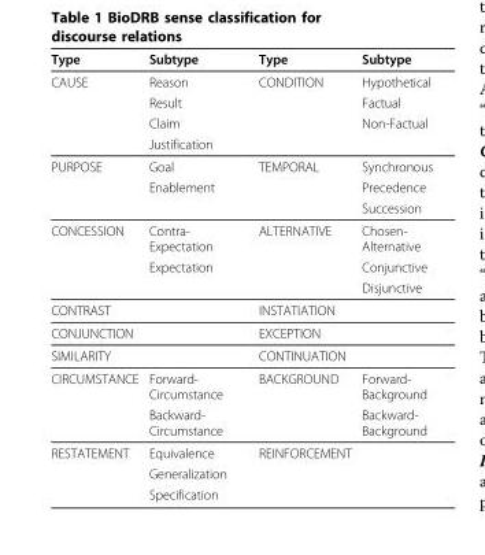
<table><thead><tr><td>Type</td><td>Subtype</td><td>Type</td><td>Subtype</td></tr></thead><tbody><tr><td rowspan="4">CAUSE</td><td>Reason</td><td>CONDITION</td><td>Hypothetical</td></tr><tr><td>Result</td><td></td><td>Factual</td></tr><tr><td>Claim</td><td></td><td>Non-Factual</td></tr><tr><td>Justification</td><td></td><td></td></tr><tr><td rowspan="3">PURPOSE</td><td>Goal</td><td>TEMPORAL</td><td>Synchronous</td></tr><tr><td>Enablement</td><td></td><td>Precedence</td></tr><tr><td></td><td></td><td>Succession</td></tr><tr><td rowspan="3">CONCESSION</td><td>Contra- Expectation</td><td>ALTERNATIVE</td><td>Chosen- Alternative</td></tr><tr><td>Expectation</td><td></td><td>Conjunctive</td></tr><tr><td></td><td></td><td>Disjunctive</td></tr><tr><td>CONTRAST</td><td></td><td>INSTATIATION</td><td></td></tr><tr><td>CONJUNCTION</td><td></td><td>EXCEPTION</td><td></td></tr><tr><td>SIMILARITY</td><td></td><td>CONTINUATION</td><td></td></tr><tr><td rowspan="2">CIRCUMSTANCE</td><td>Forward- Circumstance</td><td>BACKGROUND</td><td>Forward- Background</td></tr><tr><td>Backward- Circumstance</td><td></td><td>Backward- Background</td></tr><tr><td rowspan="3">RESTATEMENT</td><td>Equivalence</td><td>REINFORCEMENT</td><td></td></tr><tr><td>Generalization</td><td></td><td></td></tr><tr><td>Specification</td><td></td><td></td></tr></tbody></table>